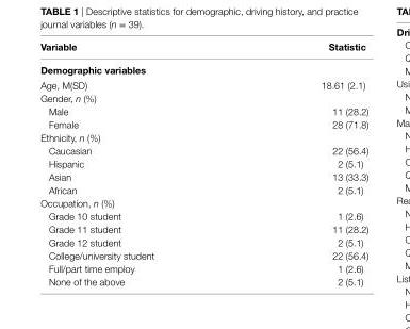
<table><thead><tr><td>Variable</td><td>statistic</td></tr><tr><td colspan="2">Demographic variables</td></tr></thead><tbody><tr><td>Age, M(SD)</td><td>18.61 (2.1)</td></tr><tr><td colspan="2">Gender, n (%)</td></tr><tr><td>Male</td><td>11 (28.2)</td></tr><tr><td>Female</td><td>28 (71.8)</td></tr><tr><td colspan="2">Ethnicity, n (%)</td></tr><tr><td>Caucasian</td><td>22 (56.4)</td></tr><tr><td>Hispanic</td><td>2 (5.1)</td></tr><tr><td>Asian</td><td>13 (33.3)</td></tr><tr><td>African</td><td>2 (5.1)</td></tr><tr><td colspan="2">Occupation, n (%)</td></tr><tr><td>Grade 10 student</td><td>1 (2.6)</td></tr><tr><td>Grade 11 student</td><td>11 (28.2)</td></tr><tr><td>Grade 12 student</td><td>2 (5.1)</td></tr><tr><td>College/university student</td><td>22 (56.4)</td></tr><tr><td>Full/part time employ</td><td>1 (2.6)</td></tr><tr><td>None of the above</td><td>2 (5.1)</td></tr></tbody></table>